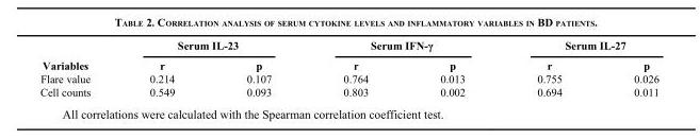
<table><thead><tr><td rowspan="2">Variables</td><td colspan="2">Serum IL-23</td><td colspan="2">Serum IFN-γ</td><td colspan="2">Serum IL-27</td></tr><tr><td>r</td><td>p</td><td>r</td><td>p</td><td>r</td><td>p</td></tr></thead><tbody><tr><td>Flare value</td><td>0.214</td><td>0.107</td><td>0.764</td><td>0.013</td><td>0.755</td><td>0.026</td></tr><tr><td>Cell counts</td><td>0.549</td><td>0.093</td><td>0.803</td><td>0.002</td><td>0.694</td><td>0.011</td></tr></tbody></table>